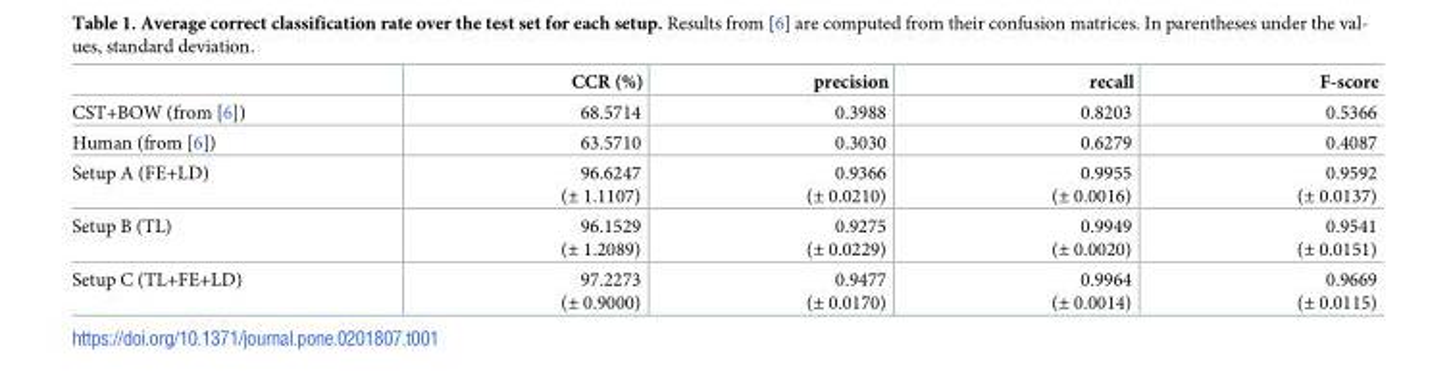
<table><thead><tr><td></td><td>CCR (%)</td><td>precision</td><td>recall</td><td>F-score</td></tr></thead><tbody><tr><td>CST+BOW (from [6])</td><td>68.5714</td><td>0.3988</td><td>0.8203</td><td>0.5366</td></tr><tr><td>Human (from [6])</td><td>63.5710</td><td>0.3030</td><td>0.6279</td><td>0.4087</td></tr><tr><td>Setup A (FE+LD)</td><td>96.6247 (± 1.1107)</td><td>0.9366 (± 0.0210)</td><td>0.9955 (± 0.0016)</td><td>0.9592 (± 0.0137)</td></tr><tr><td>Setup B (TL)</td><td>96.1529 (± 1.2089)</td><td>0.9275 (± 0.0229)</td><td>0.9949 (± 0.0020)</td><td>0.9541 (± 0.0151)</td></tr><tr><td>Setup C (TL+FE+LD)</td><td>97.2273 (± 0.9000)</td><td>0.9477 (± 0.0170)</td><td>0.9964 (± 0.0014)</td><td>0.9669 (± 0.0115)</td></tr></tbody></table>